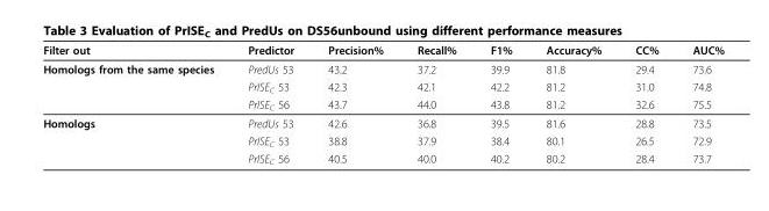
<table><thead><tr><td>Filter out</td><td>Predictor</td><td>Precision%</td><td>Recall%</td><td>F1%</td><td>Accuracy%</td><td>CC%</td><td>AUC%</td></tr></thead><tbody><tr><td rowspan="3">Homologs from the same species</td><td>PredUs 53</td><td>43.2</td><td>37.2</td><td>39.9</td><td>81.8</td><td>29.4</td><td>73.6</td></tr><tr><td>PrISE<sub>C</sub> 53</td><td>42.3</td><td>42.1</td><td>42.2</td><td>81.2</td><td>31.0</td><td>74.8</td></tr><tr><td>PrISE<sub>C</sub> 56</td><td>43.7</td><td>44.0</td><td>43.8</td><td>81.2</td><td>32.6</td><td>75.5</td></tr><tr><td rowspan="3">Homologs</td><td>PredUs 53</td><td>42.6</td><td>36.8</td><td>39.5</td><td>81.6</td><td>28.8</td><td>73.5</td></tr><tr><td>PrISE<sub>C</sub> 53</td><td>38.8</td><td>37.9</td><td>38.4</td><td>80.1</td><td>26.5</td><td>72.9</td></tr><tr><td>PrISE<sub>C</sub> 56</td><td>40.5</td><td>40.0</td><td>40.2</td><td>80.2</td><td>28.4</td><td>73.7</td></tr></tbody></table>